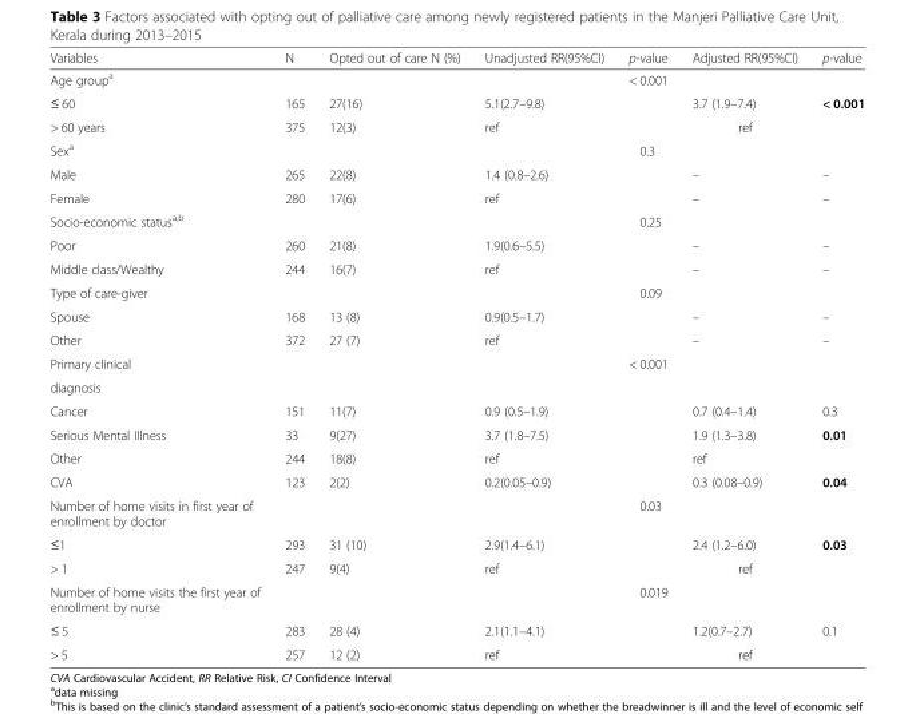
<table><thead><tr><td>Variables</td><td>N</td><td>Opted out of care N (%)</td><td>Unadjusted RR(95%CI)</td><td>p-value</td><td>Adjusted RR(95%CI)</td><td>p-value</td></tr></thead><tbody><tr><td>Age group<sup>a</sup></td><td></td><td></td><td></td><td>&lt; 0.001</td><td></td><td></td></tr><tr><td>≤ 60</td><td>165</td><td>27(16)</td><td>5.1(2.7–9.8)</td><td></td><td>3.7 (1.9–7.4)</td><td>&lt; 0.001</td></tr><tr><td>&gt; 60 years</td><td>375</td><td>12(3)</td><td>ref</td><td></td><td>ref</td><td></td></tr><tr><td>Sex<sup>a</sup></td><td></td><td></td><td></td><td>0.3</td><td></td><td></td></tr><tr><td>Male</td><td>265</td><td>22(8)</td><td>1.4 (0.8–2.6)</td><td></td><td>–</td><td>–</td></tr><tr><td>Female</td><td>280</td><td>17(6)</td><td>ref</td><td></td><td>–</td><td>–</td></tr><tr><td>Socio-economic status<sup>a,b</sup></td><td></td><td></td><td></td><td>0.25</td><td></td><td></td></tr><tr><td>Poor</td><td>260</td><td>21(8)</td><td>1.9(0.6–5.5)</td><td></td><td>–</td><td>–</td></tr><tr><td>Middle class/Wealthy</td><td>244</td><td>16(7)</td><td>ref</td><td></td><td>–</td><td>–</td></tr><tr><td>Type of care-giver</td><td></td><td></td><td></td><td>0.09</td><td></td><td></td></tr><tr><td>Spouse</td><td>168</td><td>13 (8)</td><td>0.9(0.5–1.7)</td><td></td><td>–</td><td>–</td></tr><tr><td>Other</td><td>372</td><td>27 (7)</td><td>ref</td><td></td><td>–</td><td>–</td></tr><tr><td>Primary clinical</td><td></td><td></td><td></td><td>&lt; 0.001</td><td></td><td></td></tr><tr><td colspan="7">diagnosis</td></tr><tr><td>Cancer</td><td>151</td><td>11(7)</td><td>0.9 (0.5–1.9)</td><td></td><td>0.7 (0.4–1.4)</td><td>0.3</td></tr><tr><td>Serious Mental Illness</td><td>33</td><td>9(27)</td><td>3.7 (1.8–7.5)</td><td></td><td>1.9 (1.3–3.8)</td><td>0.01</td></tr><tr><td>Other</td><td>244</td><td>18(8)</td><td>ref</td><td></td><td>ref</td><td></td></tr><tr><td>CVA</td><td>123</td><td>2(2)</td><td>0.2(0.05–0.9)</td><td></td><td>0.3 (0.08–0.9)</td><td>0.04</td></tr><tr><td>Number of home visits in first year of enrollment by doctor</td><td></td><td></td><td></td><td>0.03</td><td></td><td></td></tr><tr><td>≤1</td><td>293</td><td>31 (10)</td><td>2.9(1.4–6.1)</td><td></td><td>2.4 (1.2–6.0)</td><td>0.03</td></tr><tr><td>&gt; 1</td><td>247</td><td>9(4)</td><td>ref</td><td></td><td>ref</td><td></td></tr><tr><td>Number of home visits the first year of enrollment by nurse</td><td></td><td></td><td></td><td>0.019</td><td></td><td></td></tr><tr><td>≤ 5</td><td>283</td><td>28 (4)</td><td>2.1(1.1–4.1)</td><td></td><td>1.2(0.7–2.7)</td><td>0.1</td></tr><tr><td>&gt; 5</td><td>257</td><td>12 (2)</td><td>ref</td><td></td><td>ref</td><td></td></tr></tbody></table>